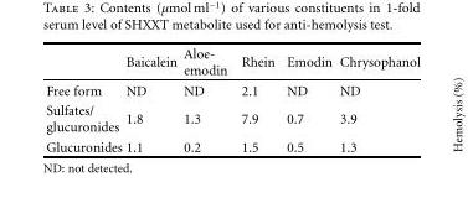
<table><thead><tr><td></td><td>Baicalein</td><td>Aloe- emodin</td><td>Rhein</td><td>Emodin</td><td>Chrysophanol</td></tr></thead><tbody><tr><td>Free form</td><td>ND</td><td>ND</td><td>2.1</td><td>ND</td><td>ND</td></tr><tr><td>Sulfates/ glucuronides</td><td>1.8</td><td>1.3</td><td>7.9</td><td>0.7</td><td>3.9</td></tr><tr><td>Glucuronides</td><td>1.1</td><td>0.2</td><td>1.5</td><td>0.5</td><td>1.3</td></tr></tbody></table>